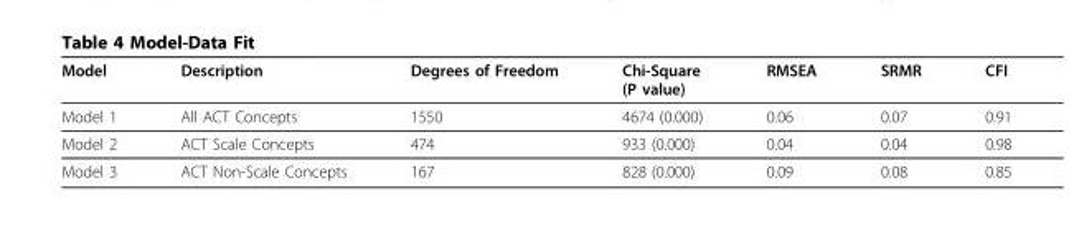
<table><thead><tr><td>Model</td><td>Description</td><td>Degrees of Freedom</td><td>Chi-Square (P value)</td><td>RMSEA</td><td>SRMR</td><td>CFI</td></tr></thead><tbody><tr><td>Model 1</td><td>All ACT Concepts</td><td>1550</td><td>4674 (0.000)</td><td>0.06</td><td>0.07</td><td>0.91</td></tr><tr><td>Model 2</td><td>ACT Scale Concepts</td><td>474</td><td>933 (0.000)</td><td>0.04</td><td>0.04</td><td>0.98</td></tr><tr><td>Model 3</td><td>ACT Non-Scale Concepts</td><td>167</td><td>828 (0.000)</td><td>0.09</td><td>0.08</td><td>0.85</td></tr></tbody></table>